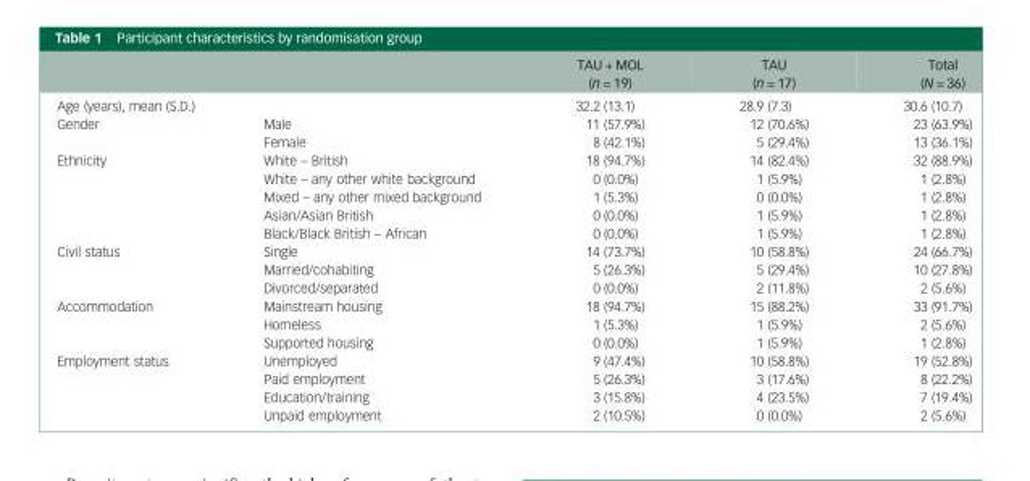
<table><thead><tr><td></td><td></td><td>TAU + MOL (n = 19)</td><td>TAU (n = 17)</td><td>Total (N = 36)</td></tr></thead><tbody><tr><td colspan="2">Age (years), mean (S.D.)</td><td>32.2 (13.1)</td><td>28.9 (7.3)</td><td>30.6 (10.7)</td></tr><tr><td rowspan="2">Gender</td><td>Male</td><td>11 (57.9%)</td><td>12 (70.6%)</td><td>23 (63.9%)</td></tr><tr><td>Female</td><td>8 (42.1%)</td><td>5 (29.4%)</td><td>13 (36.1%)</td></tr><tr><td rowspan="5">Ethnicity</td><td>White – British</td><td>18 (94.7%)</td><td>14 (82.4%)</td><td>32 (88.9%)</td></tr><tr><td>White – any other white background</td><td>0 (0.0%)</td><td>1 (5.9%)</td><td>1 (2.8%)</td></tr><tr><td>Mixed – any other mixed background</td><td>1 (5.3%)</td><td>0 (0.0%)</td><td>1 (2.8%)</td></tr><tr><td>Asian/Asian British</td><td>0 (0.0%)</td><td>1 (5.9%)</td><td>1 (2.8%)</td></tr><tr><td>Black/Black British – African</td><td>0 (0.0%)</td><td>1 (5.9%)</td><td>1 (2.8%)</td></tr><tr><td rowspan="3">Civil status</td><td>Single</td><td>14 (73.7%)</td><td>10 (58.8%)</td><td>24 (66.7%)</td></tr><tr><td>Married/cohabiting</td><td>5 (26.3%)</td><td>5 (29.4%)</td><td>10 (27.8%)</td></tr><tr><td>Divorced/separated</td><td>0 (0.0%)</td><td>2 (11.8%)</td><td>2 (5.6%)</td></tr><tr><td rowspan="3">Accommodation</td><td>Mainstream housing</td><td>18 (94.7%)</td><td>15 (88.2%)</td><td>33 (91.7%)</td></tr><tr><td>Homeless</td><td>1 (5.3%)</td><td>1 (5.9%)</td><td>2 (5.6%)</td></tr><tr><td>Supported housing</td><td>0 (0.0%)</td><td>1 (5.9%)</td><td>1 (2.8%)</td></tr><tr><td rowspan="4">Employment status</td><td>Unemployed</td><td>9 (47.4%)</td><td>10 (58.8%)</td><td>19 (52.8%)</td></tr><tr><td>Paid employment</td><td>5 (26.3%)</td><td>3 (17.6%)</td><td>8 (22.2%)</td></tr><tr><td>Education/training</td><td>3 (15.8%)</td><td>4 (23.5%)</td><td>7 (19.4%)</td></tr><tr><td>Unpaid employment</td><td>2 (10.5%)</td><td>0 (0.0%)</td><td>2 (5.6%)</td></tr></tbody></table>